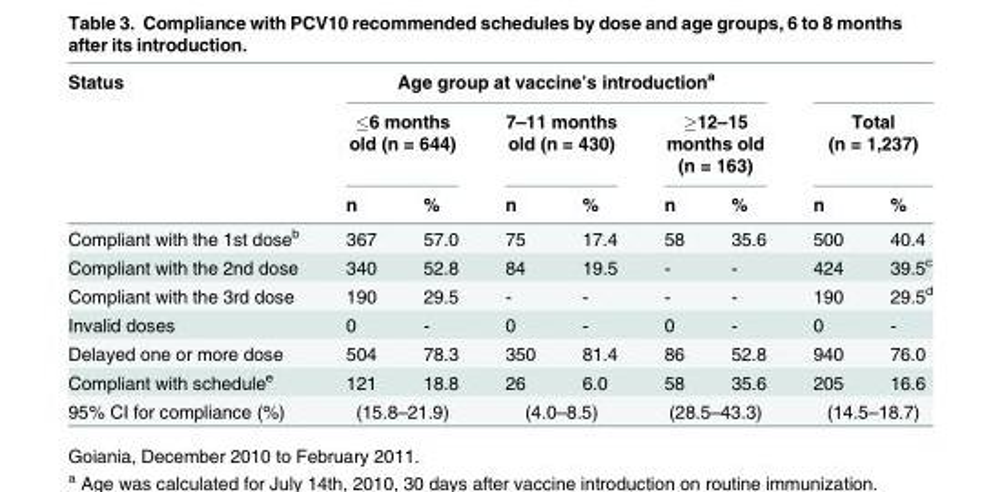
<table><thead><tr><td rowspan="3">Status</td><td colspan="6">Age group at vaccine’s introduction<sup>a</sup></td><td></td><td></td></tr><tr><td colspan="2">≤6 months old (n = 644)</td><td colspan="2">7–11 months old (n = 430)</td><td colspan="2">≥12–15 months old (n = 163)</td><td colspan="2">Total (n = 1,237)</td></tr><tr><td>n</td><td>%</td><td>n</td><td>%</td><td>n</td><td>%</td><td>n</td><td>%</td></tr></thead><tbody><tr><td>Compliant with the 1st dose<sup>b</sup></td><td>367</td><td>57.0</td><td>75</td><td>17.4</td><td>58</td><td>35.6</td><td>500</td><td>40.4</td></tr><tr><td>Compliant with the 2nd dose</td><td>340</td><td>52.8</td><td>84</td><td>19.5</td><td>-</td><td>-</td><td>424</td><td>39.5<sup>c</sup></td></tr><tr><td>Compliant with the 3rd dose</td><td>190</td><td>29.5</td><td>-</td><td>-</td><td>-</td><td>-</td><td>190</td><td>29.5<sup>d</sup></td></tr><tr><td>Invalid doses</td><td>0</td><td>-</td><td>0</td><td>-</td><td>0</td><td>-</td><td>0</td><td>-</td></tr><tr><td>Delayed one or more dose</td><td>504</td><td>78.3</td><td>350</td><td>81.4</td><td>86</td><td>52.8</td><td>940</td><td>76.0</td></tr><tr><td>Compliant with schedule<sup>e</sup></td><td>121</td><td>18.8</td><td>26</td><td>6.0</td><td>58</td><td>35.6</td><td>205</td><td>16.6</td></tr><tr><td>95% CI for compliance (%)</td><td colspan="2">(15.8–21.9)</td><td colspan="2">(4.0–8.5)</td><td colspan="2">(28.5–43.3)</td><td colspan="2">(14.5–18.7)</td></tr></tbody></table>